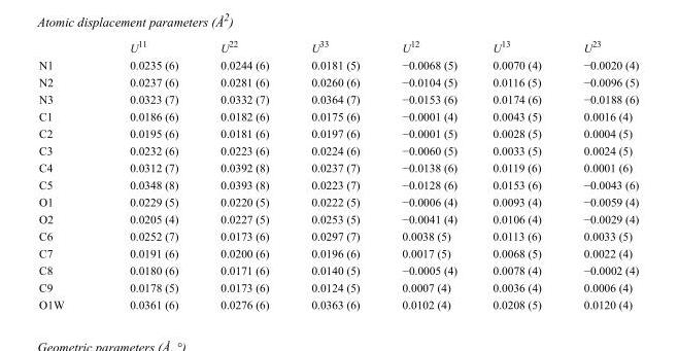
<table><thead><tr><td></td><td>U<sup>11</sup></td><td>U<sup>22</sup></td><td>U<sup>33</sup></td><td>U<sup>12</sup></td><td>U<sup>13</sup></td><td>U<sup>23</sup></td></tr></thead><tbody><tr><td>N1</td><td>0.0235 (6)</td><td>0.0244 (6)</td><td>0.0181 (5)</td><td>−0.0068 (5)</td><td>0.0070 (4)</td><td>−0.0020 (4)</td></tr><tr><td>N2</td><td>0.0237 (6)</td><td>0.0281 (6)</td><td>0.0260 (6)</td><td>−0.0104 (5)</td><td>0.0116 (5)</td><td>−0.0096 (5)</td></tr><tr><td>N3</td><td>0.0323 (7)</td><td>0.0332 (7)</td><td>0.0364 (7)</td><td>−0.0153 (6)</td><td>0.0174 (6)</td><td>−0.0188 (6)</td></tr><tr><td>C1</td><td>0.0186 (6)</td><td>0.0182 (6)</td><td>0.0175 (6)</td><td>−0.0001 (4)</td><td>0.0043 (5)</td><td>0.0016 (4)</td></tr><tr><td>C2</td><td>0.0195 (6)</td><td>0.0181 (6)</td><td>0.0197 (6)</td><td>−0.0001 (5)</td><td>0.0028 (5)</td><td>0.0004 (5)</td></tr><tr><td>C3</td><td>0.0232 (6)</td><td>0.0223 (6)</td><td>0.0224 (6)</td><td>−0.0060 (5)</td><td>0.0033 (5)</td><td>0.0024 (5)</td></tr><tr><td>C4</td><td>0.0312 (7)</td><td>0.0392 (8)</td><td>0.0237 (7)</td><td>−0.0138 (6)</td><td>0.0119 (6)</td><td>0.0001 (6)</td></tr><tr><td>C5</td><td>0.0348 (8)</td><td>0.0393 (8)</td><td>0.0223 (7)</td><td>−0.0128 (6)</td><td>0.0153 (6)</td><td>−0.0043 (6)</td></tr><tr><td>O1</td><td>0.0229 (5)</td><td>0.0220 (5)</td><td>0.0222 (5)</td><td>−0.0006 (4)</td><td>0.0093 (4)</td><td>−0.0059 (4)</td></tr><tr><td>O2</td><td>0.0205 (4)</td><td>0.0227 (5)</td><td>0.0253 (5)</td><td>−0.0041 (4)</td><td>0.0106 (4)</td><td>−0.0029 (4)</td></tr><tr><td>C6</td><td>0.0252 (7)</td><td>0.0173 (6)</td><td>0.0297 (7)</td><td>0.0038 (5)</td><td>0.0113 (6)</td><td>0.0033 (5)</td></tr><tr><td>C7</td><td>0.0191 (6)</td><td>0.0200 (6)</td><td>0.0196 (6)</td><td>0.0017 (5)</td><td>0.0068 (5)</td><td>0.0022 (4)</td></tr><tr><td>C8</td><td>0.0180 (6)</td><td>0.0171 (6)</td><td>0.0140 (5)</td><td>−0.0005 (4)</td><td>0.0078 (4)</td><td>−0.0002 (4)</td></tr><tr><td>C9</td><td>0.0178 (5)</td><td>0.0173 (6)</td><td>0.0124 (5)</td><td>0.0007 (4)</td><td>0.0036 (4)</td><td>0.0006 (4)</td></tr><tr><td>O1W</td><td>0.0361 (6)</td><td>0.0276 (6)</td><td>0.0363 (6)</td><td>0.0102 (4)</td><td>0.0208 (5)</td><td>0.0120 (4)</td></tr></tbody></table>